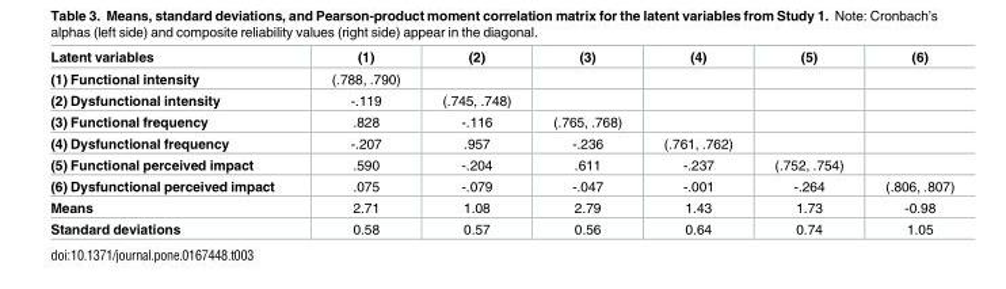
<table><thead><tr><td>Latent variables</td><td>(1)</td><td>(2)</td><td>(3)</td><td>(4)</td><td>(5)</td><td>(6)</td></tr></thead><tbody><tr><td>(1) Functional intensity</td><td>(.788, .790)</td><td></td><td></td><td></td><td></td><td></td></tr><tr><td>(2) Dysfunctional intensity</td><td>-.119</td><td>(.745, .748)</td><td></td><td></td><td></td><td></td></tr><tr><td>(3) Functional frequency</td><td>.828</td><td>-.116</td><td>(.765, .768)</td><td></td><td></td><td></td></tr><tr><td>(4) Dysfunctional frequency</td><td>-.207</td><td>.957</td><td>-.236</td><td>(.761, .762)</td><td></td><td></td></tr><tr><td>(5) Functional perceived impact</td><td>.590</td><td>-.204</td><td>.611</td><td>-.237</td><td>(.752, .754)</td><td></td></tr><tr><td>(6) Dysfunctional perceived impact</td><td>.075</td><td>-.079</td><td>-.047</td><td>-.001</td><td>-.264</td><td>(.806, .807)</td></tr><tr><td>Means</td><td>2.71</td><td>1.08</td><td>2.79</td><td>1.43</td><td>1.73</td><td>-0.98</td></tr><tr><td>Standard deviations</td><td>0.58</td><td>0.57</td><td>0.56</td><td>0.64</td><td>0.74</td><td>1.05</td></tr></tbody></table>